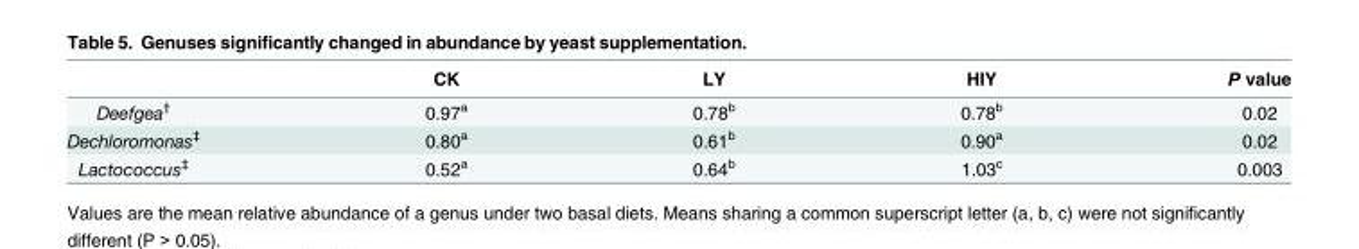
<table><thead><tr><td></td><td>CK</td><td>LY</td><td>HIY</td><td>P value</td></tr></thead><tbody><tr><td>Deefgea<sup>†</sup></td><td>0.97<sup>a</sup></td><td>0.78<sup>b</sup></td><td>0.78<sup>b</sup></td><td>0.02</td></tr><tr><td>Dechloromonas<sup>‡</sup></td><td>0.80<sup>a</sup></td><td>0.61<sup>b</sup></td><td>0.90<sup>a</sup></td><td>0.02</td></tr><tr><td>Lactococcus<sup>‡</sup></td><td>0.52<sup>a</sup></td><td>0.64<sup>b</sup></td><td>1.03<sup>c</sup></td><td>0.003</td></tr></tbody></table>